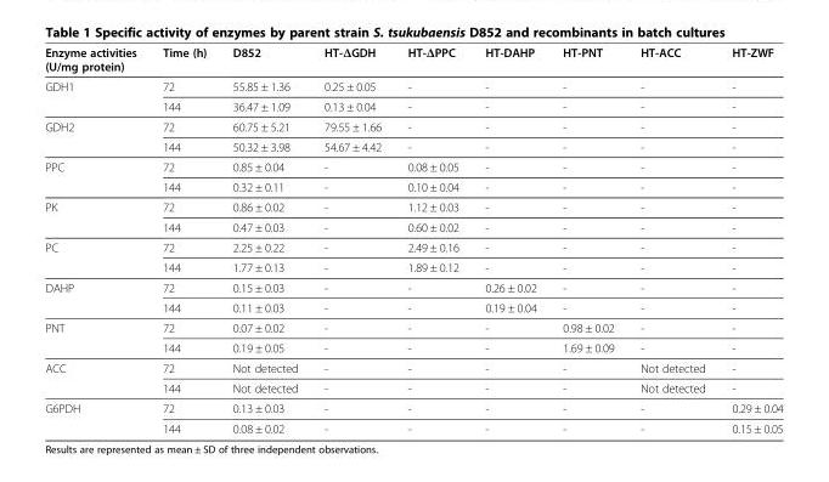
<table><thead><tr><td>Enzyme activities (U/mg protein)</td><td>Time (h)</td><td>D852</td><td>HT-ΔGDH</td><td>HT-ΔPPC</td><td>HT-DAHP</td><td>HT-PNT</td><td>HT-ACC</td><td>HT-ZWF</td></tr></thead><tbody><tr><td rowspan="2">GDH1</td><td>72</td><td>55.85 ± 1.36</td><td>0.25 ± 0.05</td><td>-</td><td>-</td><td>-</td><td>-</td><td>-</td></tr><tr><td>144</td><td>36.47 ± 1.09</td><td>0.13 ± 0.04</td><td>-</td><td>-</td><td>-</td><td>-</td><td>-</td></tr><tr><td rowspan="2">GDH2</td><td>72</td><td>60.75 ± 5.21</td><td>79.55 ± 1.66</td><td>-</td><td>-</td><td>-</td><td>-</td><td>-</td></tr><tr><td>144</td><td>50.32 ± 3.98</td><td>54.67 ± 4.42</td><td>-</td><td>-</td><td>-</td><td>-</td><td>-</td></tr><tr><td rowspan="2">PPC</td><td>72</td><td>0.85 ± 0.04</td><td>-</td><td>0.08 ± 0.05</td><td>-</td><td>-</td><td>-</td><td>-</td></tr><tr><td>144</td><td>0.32 ± 0.11</td><td>-</td><td>0.10 ± 0.04</td><td>-</td><td>-</td><td>-</td><td>-</td></tr><tr><td rowspan="2">PK</td><td>72</td><td>0.86 ± 0.02</td><td>-</td><td>1.12 ± 0.03</td><td>-</td><td>-</td><td>-</td><td>-</td></tr><tr><td>144</td><td>0.47 ± 0.03</td><td>-</td><td>0.60 ± 0.02</td><td>-</td><td>-</td><td>-</td><td>-</td></tr><tr><td rowspan="2">PC</td><td>72</td><td>2.25 ± 0.22</td><td>-</td><td>2.49 ± 0.16</td><td>-</td><td>-</td><td>-</td><td>-</td></tr><tr><td>144</td><td>1.77 ± 0.13</td><td>-</td><td>1.89 ± 0.12</td><td>-</td><td>-</td><td>-</td><td>-</td></tr><tr><td rowspan="2">DAHP</td><td>72</td><td>0.15 ± 0.03</td><td>-</td><td>-</td><td>0.26 ± 0.02</td><td>-</td><td>-</td><td>-</td></tr><tr><td>144</td><td>0.11 ± 0.03</td><td>-</td><td>-</td><td>0.19 ± 0.04</td><td>-</td><td>-</td><td>-</td></tr><tr><td rowspan="2">PNT</td><td>72</td><td>0.07 ± 0.02</td><td>-</td><td>-</td><td>-</td><td>0.98 ± 0.02</td><td>-</td><td>-</td></tr><tr><td>144</td><td>0.19 ± 0.05</td><td>-</td><td>-</td><td>-</td><td>1.69 ± 0.09</td><td>-</td><td>-</td></tr><tr><td rowspan="2">ACC</td><td>72</td><td>Not detected</td><td>-</td><td>-</td><td>-</td><td>-</td><td>Not detected</td><td>-</td></tr><tr><td>144</td><td>Not detected</td><td>-</td><td>-</td><td>-</td><td>-</td><td>Not detected</td><td>-</td></tr><tr><td rowspan="2">G6PDH</td><td>72</td><td>0.13 ± 0.03</td><td>-</td><td>-</td><td>-</td><td>-</td><td>-</td><td>0.29 ± 0.04</td></tr><tr><td>144</td><td>0.08 ± 0.02</td><td>-</td><td>-</td><td>-</td><td>-</td><td>-</td><td>0.15 ± 0.05</td></tr></tbody></table>